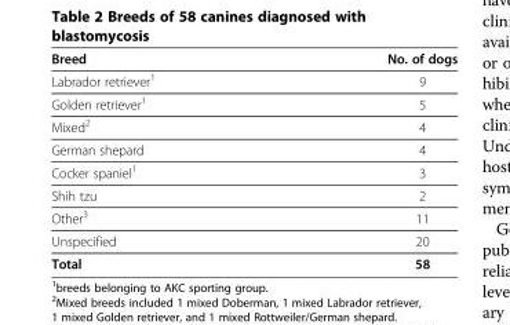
<table><thead><tr><td>Breed</td><td>No. of dogs</td></tr></thead><tbody><tr><td>Labrador retriever<sup>1</sup></td><td>9</td></tr><tr><td>Golden retriever<sup>1</sup></td><td>5</td></tr><tr><td>Mixed<sup>2</sup></td><td>4</td></tr><tr><td>German shepard</td><td>4</td></tr><tr><td>Cocker spaniel<sup>1</sup></td><td>3</td></tr><tr><td>Shih tzu</td><td>2</td></tr><tr><td>Other<sup>3</sup></td><td>11</td></tr><tr><td>Unspecified</td><td>20</td></tr><tr><td>Total</td><td>58</td></tr></tbody></table>